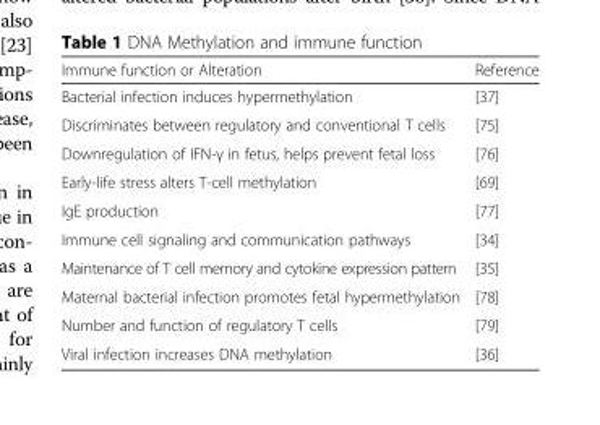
<table><thead><tr><td>Immune function or Alteration</td><td>Reference</td></tr></thead><tbody><tr><td>Bacterial infection induces hypermethylation</td><td>[37]</td></tr><tr><td>Discriminates between regulatory and conventional T cells</td><td>[75]</td></tr><tr><td>Downregulation of IFN-γ in fetus, helps prevent fetal loss</td><td>[76]</td></tr><tr><td>Early-life stress alters T-cell methylation</td><td>[69]</td></tr><tr><td>IgE production</td><td>[77]</td></tr><tr><td>Immune cell signaling and communication pathways</td><td>[34]</td></tr><tr><td>Maintenance of T cell memory and cytokine expression pattern</td><td>[35]</td></tr><tr><td>Maternal bacterial infection promotes fetal hypermethylation</td><td>[78]</td></tr><tr><td>Number and function of regulatory T cells</td><td>[79]</td></tr><tr><td>Viral infection increases DNA methylation</td><td>[36]</td></tr></tbody></table>